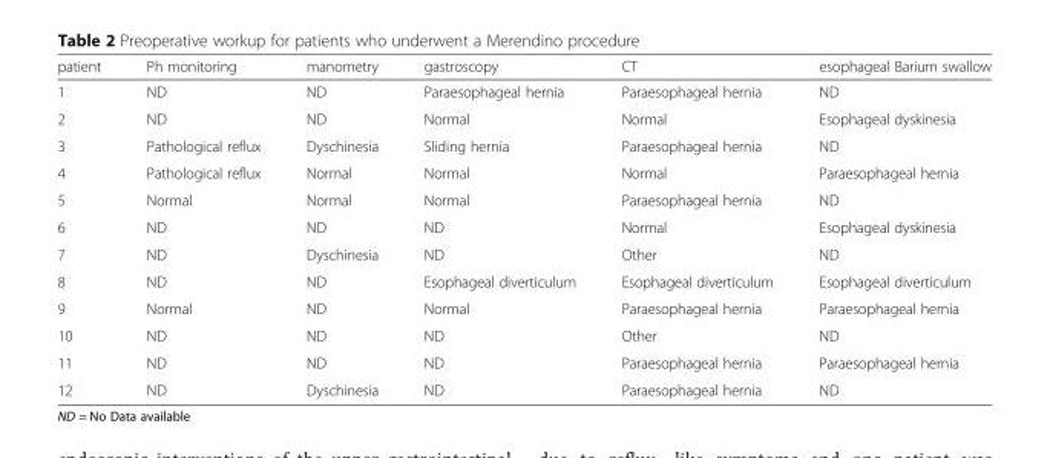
<table><thead><tr><td>patient</td><td>Ph monitoring</td><td>manometry</td><td>gastroscopy</td><td>CT</td><td>esophageal Barium swallow</td></tr></thead><tbody><tr><td>1</td><td>ND</td><td>ND</td><td>Paraesophageal hernia</td><td>Paraesophageal hernia</td><td>ND</td></tr><tr><td>2</td><td>ND</td><td>ND</td><td>Normal</td><td>Normal</td><td>Esophageal dyskinesia</td></tr><tr><td>3</td><td>Pathological reflux</td><td>Dyschinesia</td><td>Sliding hernia</td><td>Paraesophageal hernia</td><td>ND</td></tr><tr><td>4</td><td>Pathological reflux</td><td>Normal</td><td>Normal</td><td>Normal</td><td>Paraesophageal hernia</td></tr><tr><td>5</td><td>Normal</td><td>Normal</td><td>Normal</td><td>Paraesophageal hernia</td><td>ND</td></tr><tr><td>6</td><td>ND</td><td>ND</td><td>ND</td><td>Normal</td><td>Esophageal dyskinesia</td></tr><tr><td>7</td><td>ND</td><td>Dyschinesia</td><td>ND</td><td>Other</td><td>ND</td></tr><tr><td>8</td><td>ND</td><td>ND</td><td>Esophageal diverticulum</td><td>Esophageal diverticulum</td><td>Esophageal diverticulum</td></tr><tr><td>9</td><td>Normal</td><td>ND</td><td>Normal</td><td>Paraesophageal hernia</td><td>Paraesophageal hernia</td></tr><tr><td>10</td><td>ND</td><td>ND</td><td>ND</td><td>Other</td><td>ND</td></tr><tr><td>11</td><td>ND</td><td>ND</td><td>ND</td><td>Paraesophageal hernia</td><td>Paraesophageal hernia</td></tr><tr><td>12</td><td>ND</td><td>Dyschinesia</td><td>ND</td><td>Paraesophageal hernia</td><td>ND</td></tr></tbody></table>